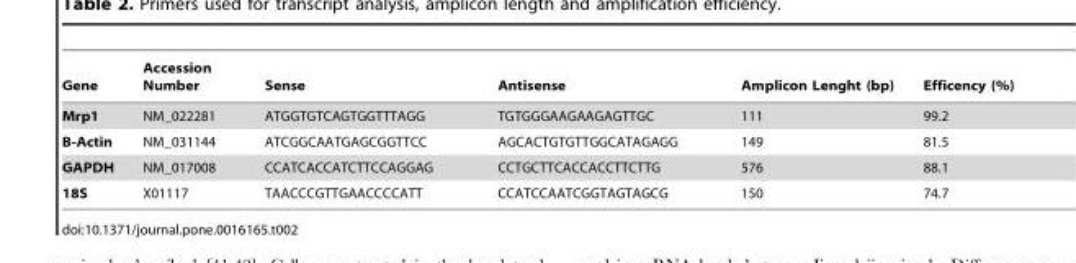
<table><thead><tr><td>Gene</td><td>Accession Number</td><td>Sense</td><td>Antisense</td><td>Amplicon Lenght (bp)</td><td>Efficency (%)</td></tr></thead><tbody><tr><td>Mrp1</td><td>NM_022281</td><td>ATGGTGTCAGTGGTTTAGG</td><td>TGTGGGAAGAAGAGTTGC</td><td>111</td><td>99.2</td></tr><tr><td>B-Actin</td><td>NM_031144</td><td>ATCGGCAATGAGCGGTTCC</td><td>AGCACTGTGTTGGCATAGAGG</td><td>149</td><td>81.5</td></tr><tr><td>GAPDH</td><td>NM_017008</td><td>CCATCACCATCTTCCAGGAG</td><td>CCTGCTTCACCACCTTCTTG</td><td>576</td><td>88.1</td></tr><tr><td>18S</td><td>X01117</td><td>TAACCCGTTGAACCCCATT</td><td>CCATCCAATCGGTAGTAGCG</td><td>150</td><td>74.7</td></tr></tbody></table>